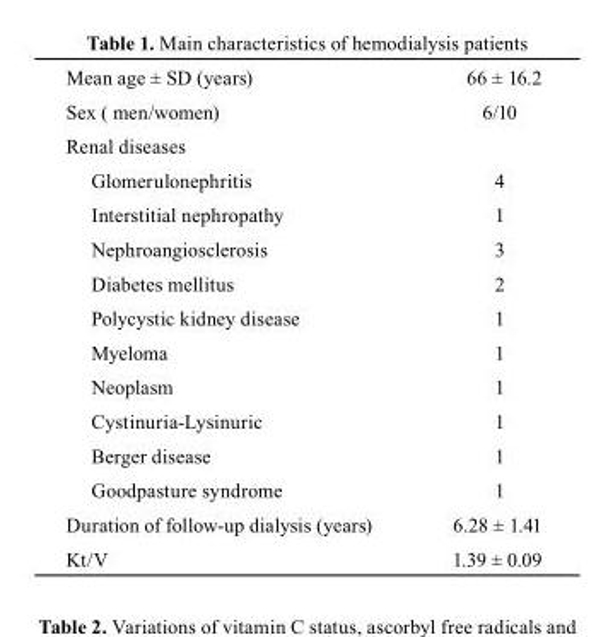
<table><tbody><tr><td>Mean age ± SD (years)</td><td>66 ± 16.2</td></tr><tr><td>Sex ( men/women)</td><td>6/10</td></tr><tr><td colspan="2">Renal diseases</td></tr><tr><td>Glomerulonephritis</td><td>4</td></tr><tr><td>Interstitial nephropathy</td><td>1</td></tr><tr><td>Nephroangiosclerosis</td><td>3</td></tr><tr><td>Diabetes mellitus</td><td>2</td></tr><tr><td>Polycystic kidney disease</td><td>1</td></tr><tr><td>Myeloma</td><td>1</td></tr><tr><td>Neoplasm</td><td>1</td></tr><tr><td>Cystinuria-Lysinuric</td><td>1</td></tr><tr><td>Berger disease</td><td>1</td></tr><tr><td>Goodpasture syndrome</td><td>1</td></tr><tr><td>Duration of follow-up dialysis (years)</td><td>6.28 ± 1.41</td></tr><tr><td>Kt/V</td><td>1.39 ± 0.09</td></tr></tbody></table>